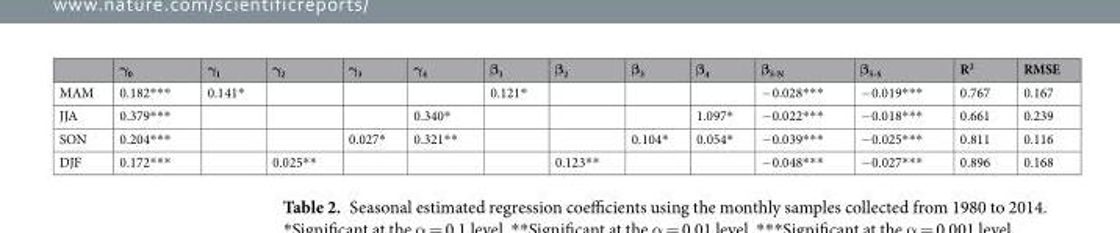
<table><thead><tr><td></td><td>γ<sub>0</sub></td><td>γ<sub>1</sub></td><td>γ<sub>2</sub></td><td>γ<sub>3</sub></td><td>γ<sub>4</sub></td><td>β<sub>1</sub></td><td>β<sub>2</sub></td><td>β<sub>3</sub></td><td>β<sub>4</sub></td><td>β<sub>5-N</sub></td><td>β<sub>5-S</sub></td><td>R<sup>2</sup></td><td>RMSE</td></tr></thead><tbody><tr><td>MAM</td><td>0.182***</td><td>0.141*</td><td></td><td></td><td></td><td>0.121*</td><td></td><td></td><td></td><td>−0.028***</td><td>−0.019***</td><td>0.767</td><td>0.167</td></tr><tr><td>JJA</td><td>0.379***</td><td></td><td></td><td></td><td>0.340*</td><td></td><td></td><td></td><td>1.097*</td><td>−0.022***</td><td>−0.018***</td><td>0.661</td><td>0.239</td></tr><tr><td>SON</td><td>0.204***</td><td></td><td></td><td>0.027*</td><td>0.321**</td><td></td><td></td><td>0.104*</td><td>0.054*</td><td>−0.039***</td><td>−0.025***</td><td>0.811</td><td>0.116</td></tr><tr><td>DJF</td><td>0.172***</td><td></td><td>0.025**</td><td></td><td></td><td></td><td>0.123**</td><td></td><td></td><td>−0.048***</td><td>−0.027***</td><td>0.896</td><td>0.168</td></tr></tbody></table>